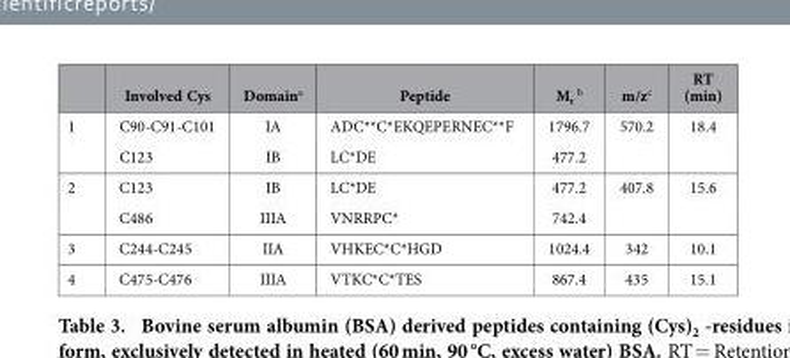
<table><thead><tr><td></td><td>Involved Cys</td><td>Domain<sup>a</sup></td><td>Peptide</td><td>M<sub>r</sub> <sup>b</sup></td><td>m/z<sup>c</sup></td><td>RT (min)</td></tr></thead><tbody><tr><td rowspan="2">1</td><td>C90-C91-C101</td><td>IA</td><td>ADC**C*EKQEPERNEC**F</td><td>1796.7</td><td>570.2</td><td>18.4</td></tr><tr><td>C123</td><td>IB</td><td>LC*DE</td><td>477.2</td><td></td><td></td></tr><tr><td rowspan="2">2</td><td>C123</td><td>IB</td><td>LC*DE</td><td>477.2</td><td>407.8</td><td>15.6</td></tr><tr><td>C486</td><td>IIIA</td><td>VNRRPC*</td><td>742.4</td><td></td><td></td></tr><tr><td>3</td><td>C244-C245</td><td>IIA</td><td>VHKEC*C*HGD</td><td>1024.4</td><td>342</td><td>10.1</td></tr><tr><td>4</td><td>C475-C476</td><td>IIIA</td><td>VTKC*C*TES</td><td>867.4</td><td>435</td><td>15.1</td></tr></tbody></table>